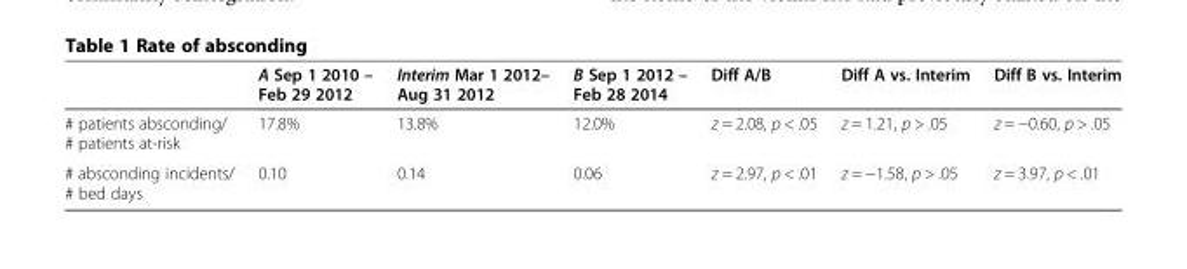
<table><thead><tr><td></td><td>A Sep 1 2010 – Feb 29 2012</td><td>Interim Mar 1 2012– Aug 31 2012</td><td>B Sep 1 2012 – Feb 28 2014</td><td>Diff A/B</td><td>Diff A vs. Interim</td><td>Diff B vs. Interim</td></tr></thead><tbody><tr><td># patients absconding/ # patients at-risk</td><td>17.8%</td><td>13.8%</td><td>12.0%</td><td>z = 2.08, p &lt; .05</td><td>z = 1.21, p &gt; .05</td><td>z = −0.60, p &gt; .05</td></tr><tr><td># absconding incidents/ # bed days</td><td>0.10</td><td>0.14</td><td>0.06</td><td>z = 2.97, p &lt; .01</td><td>z = −1.58, p &gt; .05</td><td>z = 3.97, p &lt; .01</td></tr></tbody></table>